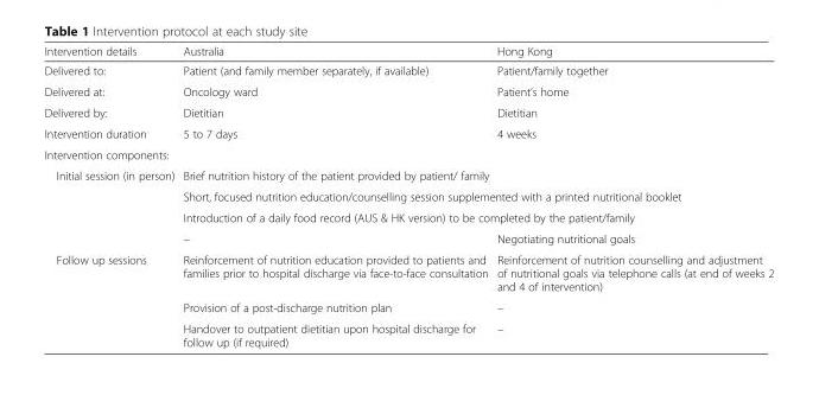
<table><thead><tr><td>Intervention details</td><td>Australia</td><td>Hong Kong</td></tr></thead><tbody><tr><td>Delivered to:</td><td>Patient (and family member separately, if available)</td><td>Patient/family together</td></tr><tr><td>Delivered at:</td><td>Oncology ward</td><td>Patient’s home</td></tr><tr><td>Delivered by:</td><td>Dietitian</td><td>Dietitian</td></tr><tr><td>Intervention duration</td><td>5 to 7 days</td><td>4 weeks</td></tr><tr><td colspan="3">Intervention components:</td></tr><tr><td rowspan="4">Initial session (in person)</td><td colspan="2">Brief nutrition history of the patient provided by patient/ family</td></tr><tr><td colspan="2">Short, focused nutrition education/counselling session supplemented with a printed nutritional booklet</td></tr><tr><td colspan="2">Introduction of a daily food record (AUS &amp; HK version) to be completed by the patient/family</td></tr><tr><td>–</td><td>Negotiating nutritional goals</td></tr><tr><td rowspan="3">Follow up sessions</td><td>Reinforcement of nutrition education provided to patients and families prior to hospital discharge via face-to-face consultation</td><td>Reinforcement of nutrition counselling and adjustment of nutritional goals via telephone calls (at end of weeks 2 and 4 of intervention)</td></tr><tr><td>Provision of a post-discharge nutrition plan</td><td>–</td></tr><tr><td>Handover to outpatient dietitian upon hospital discharge for follow up (if required)</td><td>–</td></tr></tbody></table>